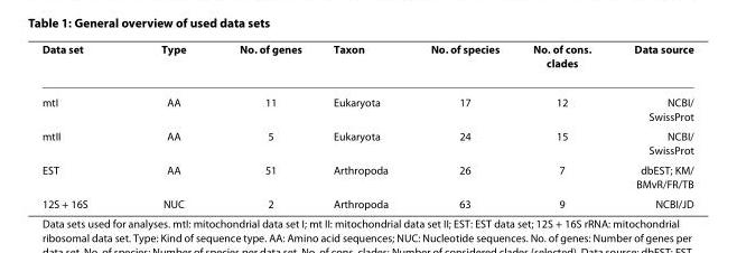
<table><thead><tr><td>Data set</td><td>Type</td><td>No. of genes</td><td>Taxon</td><td>No. of species</td><td>No. of cons. clades</td><td>Data source</td></tr></thead><tbody><tr><td>mtI</td><td>AA</td><td>11</td><td>Eukaryota</td><td>17</td><td>12</td><td>NCBI/ SwissProt</td></tr><tr><td>mtII</td><td>AA</td><td>5</td><td>Eukaryota</td><td>24</td><td>15</td><td>NCBI/ SwissProt</td></tr><tr><td>EST</td><td>AA</td><td>51</td><td>Arthropoda</td><td>26</td><td>7</td><td>dbEST; KM/ BMvR/FR/TB</td></tr><tr><td>12S + 16S</td><td>NUC</td><td>2</td><td>Arthropoda</td><td>63</td><td>9</td><td>NCBI/JD</td></tr></tbody></table>